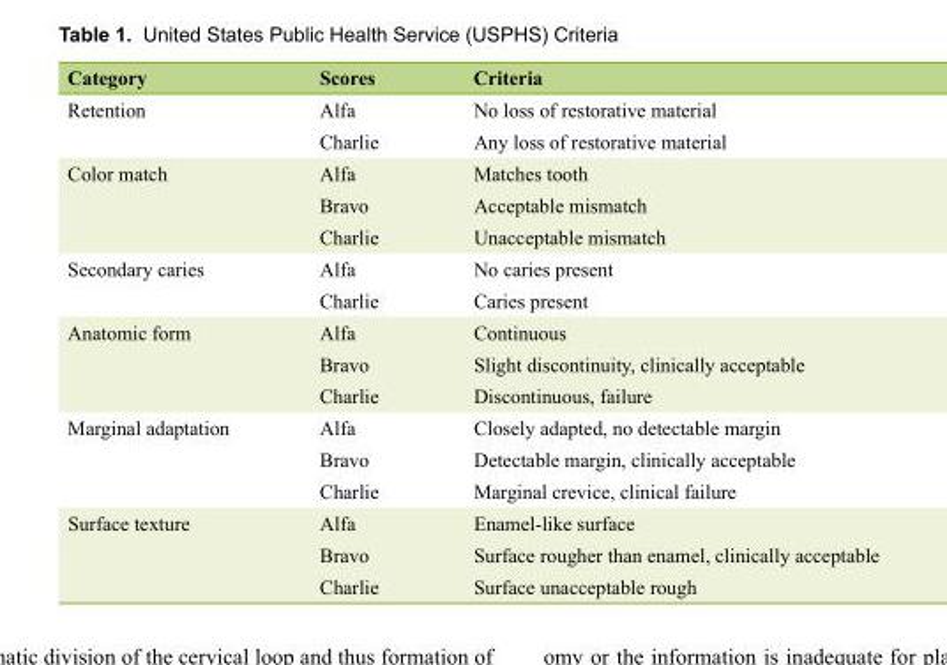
<table><thead><tr><td>Category</td><td>Scores</td><td>Criteria</td></tr></thead><tbody><tr><td rowspan="2">Retention</td><td>Alfa</td><td>No loss of restorative material</td></tr><tr><td>Charlie</td><td>Any loss of restorative material</td></tr><tr><td rowspan="3">Color match</td><td>Alfa</td><td>Matches tooth</td></tr><tr><td>Bravo</td><td>Acceptable mismatch</td></tr><tr><td>Charlie</td><td>Unacceptable mismatch</td></tr><tr><td rowspan="2">Secondary caries</td><td>Alfa</td><td>No caries present</td></tr><tr><td>Charlie</td><td>Caries present</td></tr><tr><td rowspan="3">Anatomic form</td><td>Alfa</td><td>Continuous</td></tr><tr><td>Bravo</td><td>Slight discontinuity, clinically acceptable</td></tr><tr><td>Charlie</td><td>Discontinuous, failure</td></tr><tr><td rowspan="3">Marginal adaptation</td><td>Alfa</td><td>Closely adapted, no detectable margin</td></tr><tr><td>Bravo</td><td>Detectable margin, clinically acceptable</td></tr><tr><td>Charlie</td><td>Marginal crevice, clinical failure</td></tr><tr><td rowspan="3">Surface texture</td><td>Alfa</td><td>Enamel-like surface</td></tr><tr><td>Bravo</td><td>Surface rougher than enamel, clinically acceptable</td></tr><tr><td>Charlie</td><td>Surface unacceptable rough</td></tr></tbody></table>